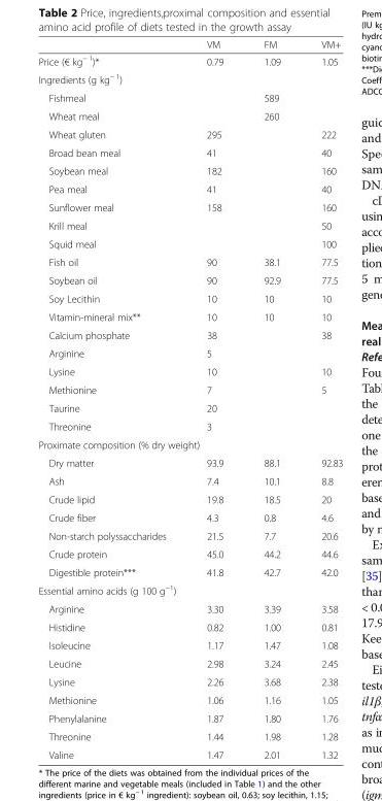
<table><thead><tr><td></td><td>VM</td><td>FM</td><td>VM+</td></tr></thead><tbody><tr><td>Price (€ kg<sup>− 1</sup>)*</td><td>0.79</td><td>1.09</td><td>1.05</td></tr><tr><td colspan="4">Ingredients (g kg<sup>− 1</sup>)</td></tr><tr><td>Fishmeal</td><td></td><td>589</td><td></td></tr><tr><td>Wheat meal</td><td></td><td>260</td><td></td></tr><tr><td>Wheat gluten</td><td>295</td><td></td><td>222</td></tr><tr><td>Broad bean meal</td><td>41</td><td></td><td>40</td></tr><tr><td>Soybean meal</td><td>182</td><td></td><td>160</td></tr><tr><td>Pea meal</td><td>41</td><td></td><td>40</td></tr><tr><td>Sunflower meal</td><td>158</td><td></td><td>160</td></tr><tr><td>Krill meal</td><td></td><td></td><td>50</td></tr><tr><td>Squid meal</td><td></td><td></td><td>100</td></tr><tr><td>Fish oil</td><td>90</td><td>38.1</td><td>77.5</td></tr><tr><td>Soybean oil</td><td>90</td><td>92.9</td><td>77.5</td></tr><tr><td>Soy Lecithin</td><td>10</td><td>10</td><td>10</td></tr><tr><td>Vitamin-mineral mix**</td><td>10</td><td>10</td><td>10</td></tr><tr><td>Calcium phosphate</td><td>38</td><td></td><td>38</td></tr><tr><td>Arginine</td><td>5</td><td></td><td></td></tr><tr><td>Lysine</td><td>10</td><td></td><td>10</td></tr><tr><td>Methionine</td><td>7</td><td></td><td>5</td></tr><tr><td>Taurine</td><td>20</td><td></td><td></td></tr><tr><td>Threonine</td><td>3</td><td></td><td></td></tr><tr><td colspan="4">Proximate composition (% dry weight)</td></tr><tr><td>Dry matter</td><td>93.9</td><td>88.1</td><td>92.83</td></tr><tr><td>Ash</td><td>7.4</td><td>10.1</td><td>8.8</td></tr><tr><td>Crude lipid</td><td>19.8</td><td>18.5</td><td>20</td></tr><tr><td>Crude fiber</td><td>4.3</td><td>0.8</td><td>4.6</td></tr><tr><td>Non-starch polyssaccharides</td><td>21.5</td><td>7.7</td><td>20.6</td></tr><tr><td>Crude protein</td><td>45.0</td><td>44.2</td><td>44.6</td></tr><tr><td>Digestible protein***</td><td>41.8</td><td>42.7</td><td>42.0</td></tr><tr><td colspan="4">Essential amino acids (g 100 g<sup>−1</sup>)</td></tr><tr><td>Arginine</td><td>3.30</td><td>3.39</td><td>3.58</td></tr><tr><td>Histidine</td><td>0.82</td><td>1.00</td><td>0.81</td></tr><tr><td>Isoleucine</td><td>1.17</td><td>1.47</td><td>1.08</td></tr><tr><td>Leucine</td><td>2.98</td><td>3.24</td><td>2.45</td></tr><tr><td>Lysine</td><td>2.26</td><td>3.68</td><td>2.38</td></tr><tr><td>Methionine</td><td>1.06</td><td>1.16</td><td>1.05</td></tr><tr><td>Phenylalanine</td><td>1.87</td><td>1.80</td><td>1.76</td></tr><tr><td>Threonine</td><td>1.44</td><td>1.98</td><td>1.28</td></tr><tr><td>Valine</td><td>1.47</td><td>2.01</td><td>1.32</td></tr></tbody></table>